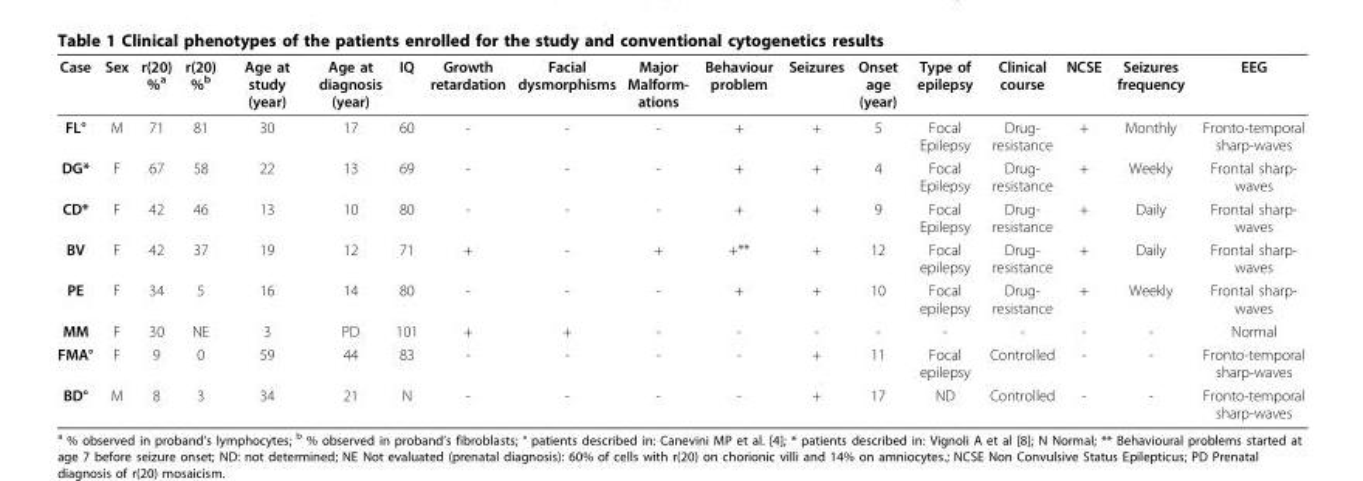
<table><thead><tr><td>Case</td><td>Sex</td><td>r(20) %<sup>a</sup></td><td>r(20) %<sup>b</sup></td><td>Age at study (year)</td><td>Age at diagnosis (year)</td><td>IQ</td><td>Growth retardation</td><td>Facial dysmorphisms</td><td>Major Malform- ations</td><td>Behaviour problem</td><td>Seizures</td><td>Onset age (year)</td><td>Type of epilepsy</td><td>Clinical course</td><td>NCSE</td><td>Seizures frequency</td><td>EEG</td></tr></thead><tbody><tr><td>FL°</td><td>M</td><td>71</td><td>81</td><td>30</td><td>17</td><td>60</td><td>-</td><td>-</td><td>-</td><td>+</td><td>+</td><td>5</td><td>Focal Epilepsy</td><td>Drug- resistance</td><td>+</td><td>Monthly</td><td>Fronto-temporal sharp-waves</td></tr><tr><td>DG*</td><td>F</td><td>67</td><td>58</td><td>22</td><td>13</td><td>69</td><td>-</td><td>-</td><td>-</td><td>+</td><td>+</td><td>4</td><td>Focal Epilepsy</td><td>Drug- resistance</td><td>+</td><td>Weekly</td><td>Frontal sharp- waves</td></tr><tr><td>CD*</td><td>F</td><td>42</td><td>46</td><td>13</td><td>10</td><td>80</td><td>-</td><td>-</td><td>-</td><td>+</td><td>+</td><td>9</td><td>Focal Epilepsy</td><td>Drug- resistance</td><td>+</td><td>Daily</td><td>Frontal sharp- waves</td></tr><tr><td>BV</td><td>F</td><td>42</td><td>37</td><td>19</td><td>12</td><td>71</td><td>+</td><td>-</td><td>+</td><td>+**</td><td>+</td><td>12</td><td>Focal epilepsy</td><td>Drug- resistance</td><td>+</td><td>Daily</td><td>Frontal sharp- waves</td></tr><tr><td>PE</td><td>F</td><td>34</td><td>5</td><td>16</td><td>14</td><td>80</td><td>-</td><td>-</td><td>-</td><td>+</td><td>+</td><td>10</td><td>Focal epilepsy</td><td>Drug- resistance</td><td>+</td><td>Weekly</td><td>Frontal sharp- waves</td></tr><tr><td>MM</td><td>F</td><td>30</td><td>NE</td><td>3</td><td>PD</td><td>101</td><td>+</td><td>+</td><td>-</td><td>-</td><td>-</td><td>-</td><td>-</td><td>-</td><td>-</td><td>-</td><td>Normal</td></tr><tr><td>FMA°</td><td>F</td><td>9</td><td>0</td><td>59</td><td>44</td><td>83</td><td>-</td><td>-</td><td>-</td><td>-</td><td>+</td><td>11</td><td>Focal epilepsy</td><td>Controlled</td><td>-</td><td>-</td><td>Fronto-temporal sharp-waves</td></tr><tr><td>BD°</td><td>M</td><td>8</td><td>3</td><td>34</td><td>21</td><td>N</td><td>-</td><td>-</td><td>-</td><td>-</td><td>+</td><td>17</td><td>ND</td><td>Controlled</td><td>-</td><td>-</td><td>Fronto-temporal sharp-waves</td></tr></tbody></table>